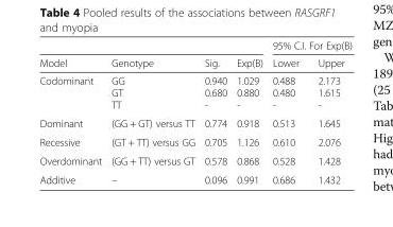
<table><thead><tr><td rowspan="2">Model</td><td rowspan="2">Genotype</td><td rowspan="2">Sig.</td><td rowspan="2">Exp(B)</td><td colspan="2">95% C.I. For Exp(B)</td></tr><tr><td>Lower</td><td>Upper</td></tr></thead><tbody><tr><td>Codominant</td><td>GG GT TT</td><td>0.940 0.680 -</td><td>1.029 0.880 -</td><td>0.488 0.480 -</td><td>2.173 1.615 -</td></tr><tr><td>Dominant</td><td>(GG + GT) versus TT</td><td>0.774</td><td>0.918</td><td>0.513</td><td>1.645</td></tr><tr><td>Recessive</td><td>(GT + TT) versus GG</td><td>0.705</td><td>1.126</td><td>0.610</td><td>2.076</td></tr><tr><td>Overdominant</td><td>(GG + TT) versus GT</td><td>0.578</td><td>0.868</td><td>0.528</td><td>1.428</td></tr><tr><td>Additive</td><td>–</td><td>0.096</td><td>0.991</td><td>0.686</td><td>1.432</td></tr></tbody></table>